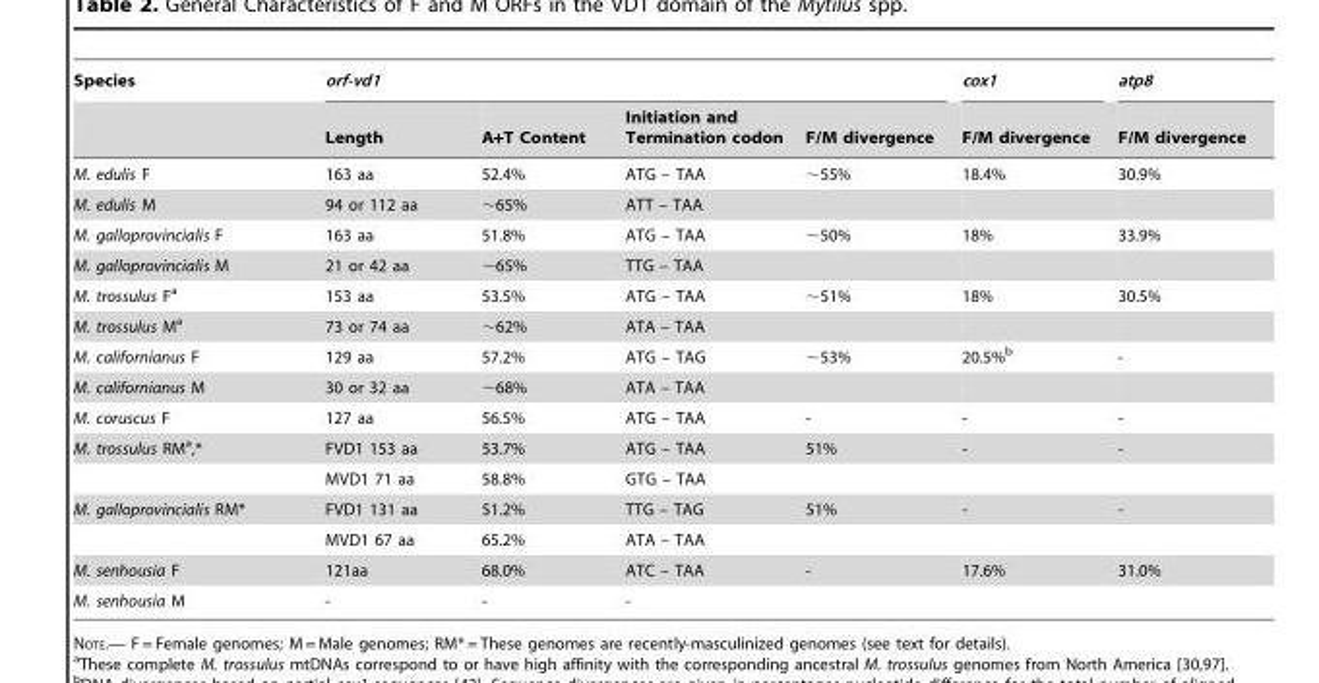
<table><thead><tr><td rowspan="2">Species</td><td colspan="4">orf-vd1</td><td rowspan="2">cox1 F/M divergence</td><td rowspan="2">atp8 F/M divergence</td></tr><tr><td>Length</td><td>A+T Content</td><td>Initiation and Termination codon</td><td>F/M divergence</td></tr></thead><tbody><tr><td>M. edulis F</td><td>163 aa</td><td>52.4%</td><td>ATG – TAA</td><td>∼55%</td><td>18.4%</td><td>30.9%</td></tr><tr><td>M. edulis M</td><td>94 or 112 aa</td><td>∼65%</td><td>ATT – TAA</td><td></td><td></td><td></td></tr><tr><td>M. galloprovincialis F</td><td>163 aa</td><td>51.8%</td><td>ATG – TAA</td><td>∼50%</td><td>18%</td><td>33.9%</td></tr><tr><td>M. galloprovincialis M</td><td>21 or 42 aa</td><td>∼65%</td><td>TTG – TAA</td><td></td><td></td><td></td></tr><tr><td>M. trossulus F<sup>a</sup></td><td>153 aa</td><td>53.5%</td><td>ATG – TAA</td><td>∼51%</td><td>18%</td><td>30.5%</td></tr><tr><td>M. trossulus M<sup>a</sup></td><td>73 or 74 aa</td><td>∼62%</td><td>ATA – TAA</td><td></td><td></td><td></td></tr><tr><td>M. californianus F</td><td>129 aa</td><td>57.2%</td><td>ATG – TAG</td><td>∼53%</td><td>20.5%<sup>b</sup></td><td>-</td></tr><tr><td>M. californianus M</td><td>30 or 32 aa</td><td>∼68%</td><td>ATA – TAA</td><td></td><td></td><td></td></tr><tr><td>M. coruscus F</td><td>127 aa</td><td>56.5%</td><td>ATG – TAA</td><td>-</td><td>-</td><td>-</td></tr><tr><td rowspan="2">M. trossulus RM<sup>a</sup>,*</td><td>FVD1 153 aa</td><td>53.7%</td><td>ATG – TAA</td><td>51%</td><td>-</td><td>-</td></tr><tr><td>MVD1 71 aa</td><td>58.8%</td><td>GTG – TAA</td><td></td><td></td><td></td></tr><tr><td rowspan="2">M. galloprovincialis RM*</td><td>FVD1 131 aa</td><td>51.2%</td><td>TTG – TAG</td><td>51%</td><td>-</td><td>-</td></tr><tr><td>MVD1 67 aa</td><td>65.2%</td><td>ATA – TAA</td><td></td><td></td><td></td></tr><tr><td>M. senhousia F</td><td>121aa</td><td>68.0%</td><td>ATC – TAA</td><td>-</td><td>17.6%</td><td>31.0%</td></tr><tr><td>M. senhousia M</td><td>-</td><td>-</td><td>-</td><td></td><td></td><td></td></tr></tbody></table>